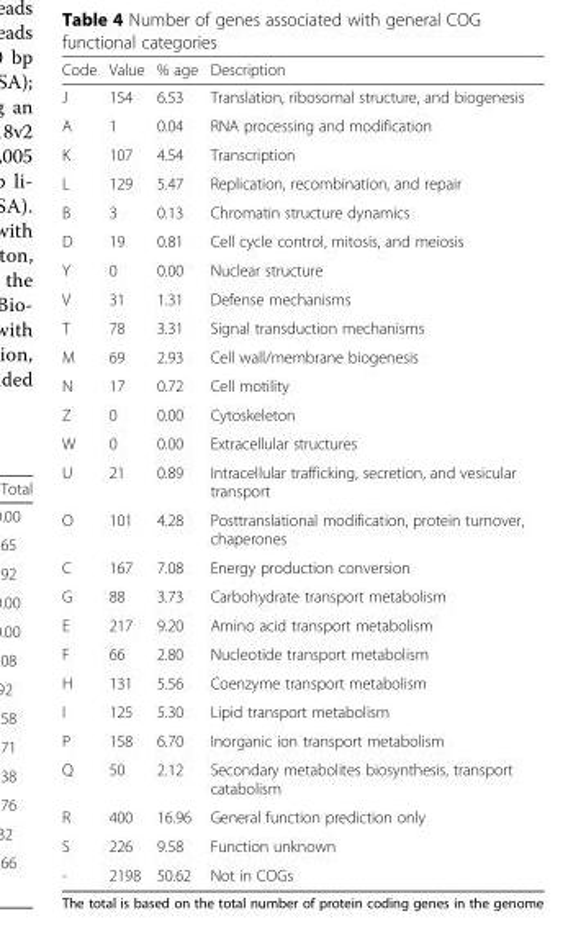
<table><thead><tr><td>Code</td><td>Value</td><td>% age</td><td>Description</td></tr></thead><tbody><tr><td>J</td><td>154</td><td>6.53</td><td>Translation, ribosomal structure, and biogenesis</td></tr><tr><td>A</td><td>1</td><td>0.04</td><td>RNA processing and modification</td></tr><tr><td>K</td><td>107</td><td>4.54</td><td>Transcription</td></tr><tr><td>L</td><td>129</td><td>5.47</td><td>Replication, recombination, and repair</td></tr><tr><td>B</td><td>3</td><td>0.13</td><td>Chromatin structure dynamics</td></tr><tr><td>D</td><td>19</td><td>0.81</td><td>Cell cycle control, mitosis, and meiosis</td></tr><tr><td>Y</td><td>0</td><td>0.00</td><td>Nuclear structure</td></tr><tr><td>V</td><td>31</td><td>1.31</td><td>Defense mechanisms</td></tr><tr><td>T</td><td>78</td><td>3.31</td><td>Signal transduction mechanisms</td></tr><tr><td>M</td><td>69</td><td>2.93</td><td>Cell wall/membrane biogenesis</td></tr><tr><td>N</td><td>17</td><td>0.72</td><td>Cell motility</td></tr><tr><td>Z</td><td>0</td><td>0.00</td><td>Cytoskeleton</td></tr><tr><td>W</td><td>0</td><td>0.00</td><td>Extracellular structures</td></tr><tr><td>U</td><td>21</td><td>0.89</td><td>Intracellular trafficking, secretion, and vesicular transport</td></tr><tr><td>O</td><td>101</td><td>4.28</td><td>Posttranslational modification, protein turnover, chaperones</td></tr><tr><td>C</td><td>167</td><td>7.08</td><td>Energy production conversion</td></tr><tr><td>G</td><td>88</td><td>3.73</td><td>Carbohydrate transport metabolism</td></tr><tr><td>E</td><td>217</td><td>9.20</td><td>Amino acid transport metabolism</td></tr><tr><td>F</td><td>66</td><td>2.80</td><td>Nucleotide transport metabolism</td></tr><tr><td>H</td><td>131</td><td>5.56</td><td>Coenzyme transport metabolism</td></tr><tr><td>I</td><td>125</td><td>5.30</td><td>Lipid transport metabolism</td></tr><tr><td>P</td><td>158</td><td>6.70</td><td>Inorganic ion transport metabolism</td></tr><tr><td>Q</td><td>50</td><td>2.12</td><td>Secondary metabolites biosynthesis, transport catabolism</td></tr><tr><td>R</td><td>400</td><td>16.96</td><td>General function prediction only</td></tr><tr><td>S</td><td>226</td><td>9.58</td><td>Function unknown</td></tr><tr><td>-</td><td>2198</td><td>50.62</td><td>Not in COGs</td></tr></tbody></table>